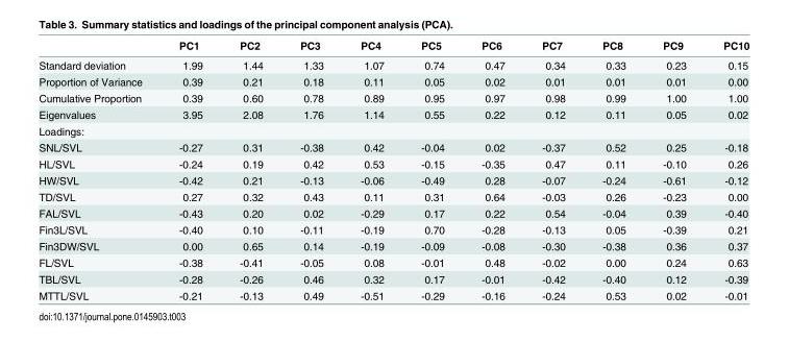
<table><thead><tr><td></td><td>PC1</td><td>PC2</td><td>PC3</td><td>PC4</td><td>PC5</td><td>PC6</td><td>PC7</td><td>PC8</td><td>PC9</td><td>PC10</td></tr></thead><tbody><tr><td>Standard deviation</td><td>1.99</td><td>1.44</td><td>1.33</td><td>1.07</td><td>0.74</td><td>0.47</td><td>0.34</td><td>0.33</td><td>0.23</td><td>0.15</td></tr><tr><td>Proportion of Variance</td><td>0.39</td><td>0.21</td><td>0.18</td><td>0.11</td><td>0.05</td><td>0.02</td><td>0.01</td><td>0.01</td><td>0.01</td><td>0.00</td></tr><tr><td>Cumulative Proportion</td><td>0.39</td><td>0.60</td><td>0.78</td><td>0.89</td><td>0.95</td><td>0.97</td><td>0.98</td><td>0.99</td><td>1.00</td><td>1.00</td></tr><tr><td>Eigenvalues</td><td>3.95</td><td>2.08</td><td>1.76</td><td>1.14</td><td>0.55</td><td>0.22</td><td>0.12</td><td>0.11</td><td>0.05</td><td>0.02</td></tr><tr><td colspan="11">Loadings:</td></tr><tr><td>SNL/SVL</td><td>-0.27</td><td>0.31</td><td>-0.38</td><td>0.42</td><td>-0.04</td><td>0.02</td><td>-0.37</td><td>0.52</td><td>0.25</td><td>-0.18</td></tr><tr><td>HL/SVL</td><td>-0.24</td><td>0.19</td><td>0.42</td><td>0.53</td><td>-0.15</td><td>-0.35</td><td>0.47</td><td>0.11</td><td>-0.10</td><td>0.26</td></tr><tr><td>HW/SVL</td><td>-0.42</td><td>0.21</td><td>-0.13</td><td>-0.06</td><td>-0.49</td><td>0.28</td><td>-0.07</td><td>-0.24</td><td>-0.61</td><td>-0.12</td></tr><tr><td>TD/SVL</td><td>0.27</td><td>0.32</td><td>0.43</td><td>0.11</td><td>0.31</td><td>0.64</td><td>-0.03</td><td>0.26</td><td>-0.23</td><td>0.00</td></tr><tr><td>FAL/SVL</td><td>-0.43</td><td>0.20</td><td>0.02</td><td>-0.29</td><td>0.17</td><td>0.22</td><td>0.54</td><td>-0.04</td><td>0.39</td><td>-0.40</td></tr><tr><td>Fin3L/SVL</td><td>-0.40</td><td>0.10</td><td>-0.11</td><td>-0.19</td><td>0.70</td><td>-0.28</td><td>-0.13</td><td>0.05</td><td>-0.39</td><td>0.21</td></tr><tr><td>Fin3DW/SVL</td><td>0.00</td><td>0.65</td><td>0.14</td><td>-0.19</td><td>-0.09</td><td>-0.08</td><td>-0.30</td><td>-0.38</td><td>0.36</td><td>0.37</td></tr><tr><td>FL/SVL</td><td>-0.38</td><td>-0.41</td><td>-0.05</td><td>0.08</td><td>-0.01</td><td>0.48</td><td>-0.02</td><td>0.00</td><td>0.24</td><td>0.63</td></tr><tr><td>TBL/SVL</td><td>-0.28</td><td>-0.26</td><td>0.46</td><td>0.32</td><td>0.17</td><td>-0.01</td><td>-0.42</td><td>-0.40</td><td>0.12</td><td>-0.39</td></tr><tr><td>MTTL/SVL</td><td>-0.21</td><td>-0.13</td><td>0.49</td><td>-0.51</td><td>-0.29</td><td>-0.16</td><td>-0.24</td><td>0.53</td><td>0.02</td><td>-0.01</td></tr></tbody></table>